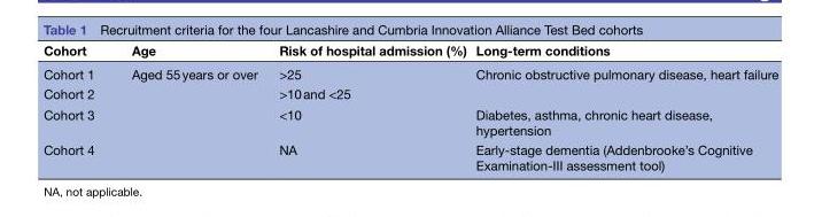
<table><thead><tr><td>Cohort</td><td>Age</td><td>Risk of hospital admission (%)</td><td>Long-term conditions</td></tr></thead><tbody><tr><td>Cohort 1</td><td rowspan="4">Aged 55 years or over</td><td>&gt;25</td><td rowspan="2">Chronic obstructive pulmonary disease, heart failure</td></tr><tr><td>Cohort 2</td><td>&gt;10 and &lt;25</td></tr><tr><td>Cohort 3</td><td>&lt;10</td><td>Diabetes, asthma, chronic heart disease, hypertension</td></tr><tr><td>Cohort 4</td><td>NA</td><td>Early-stage dementia (Addenbrooke’s Cognitive Examination-III assessment tool)</td></tr></tbody></table>